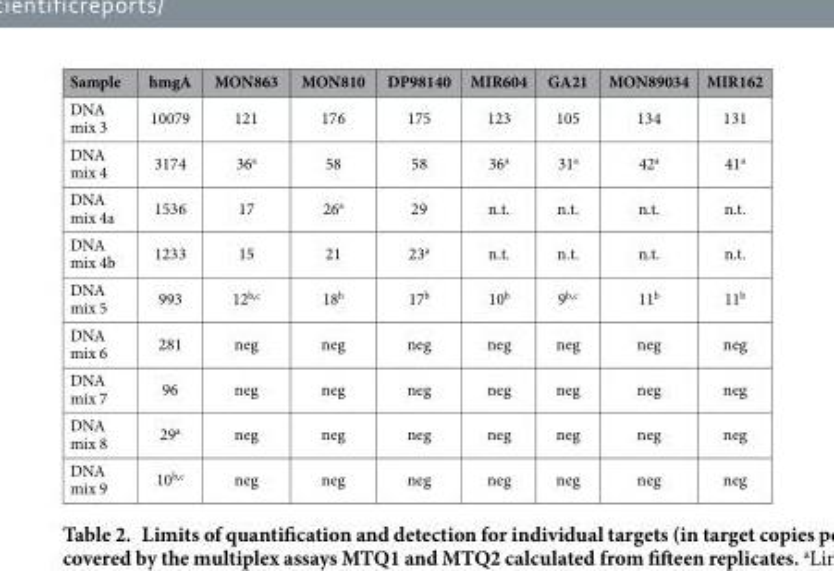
<table><thead><tr><td>Sample</td><td>hmgA</td><td>MON863</td><td>MON810</td><td>DP98140</td><td>MIR604</td><td>GA21</td><td>MON89034</td><td>MIR162</td></tr></thead><tbody><tr><td>DNA mix 3</td><td>10079</td><td>121</td><td>176</td><td>175</td><td>123</td><td>105</td><td>134</td><td>131</td></tr><tr><td>DNA mix 4</td><td>3174</td><td>36<sup>a</sup></td><td>58</td><td>58</td><td>36<sup>a</sup></td><td>31<sup>a</sup></td><td>42<sup>a</sup></td><td>41<sup>a</sup></td></tr><tr><td>DNA mix 4a</td><td>1536</td><td>17</td><td>26<sup>a</sup></td><td>29</td><td>n.t.</td><td>n.t.</td><td>n.t.</td><td>n.t.</td></tr><tr><td>DNA mix 4b</td><td>1233</td><td>15</td><td>21</td><td>23<sup>a</sup></td><td>n.t.</td><td>n.t.</td><td>n.t.</td><td>n.t.</td></tr><tr><td>DNA mix 5</td><td>993</td><td>12<sup>b,c</sup></td><td>18<sup>b</sup></td><td>17<sup>b</sup></td><td>10<sup>b</sup></td><td>9<sup>b,c</sup></td><td>11<sup>b</sup></td><td>11<sup>b</sup></td></tr><tr><td>DNA mix 6</td><td>281</td><td>neg</td><td>neg</td><td>neg</td><td>neg</td><td>neg</td><td>neg</td><td>neg</td></tr><tr><td>DNA mix 7</td><td>96</td><td>neg</td><td>neg</td><td>neg</td><td>neg</td><td>neg</td><td>neg</td><td>neg</td></tr><tr><td>DNA mix 8</td><td>29<sup>a</sup></td><td>neg</td><td>neg</td><td>neg</td><td>neg</td><td>neg</td><td>neg</td><td>neg</td></tr><tr><td>DNA mix 9</td><td>10<sup>b,c</sup></td><td>neg</td><td>neg</td><td>neg</td><td>neg</td><td>neg</td><td>neg</td><td>neg</td></tr></tbody></table>